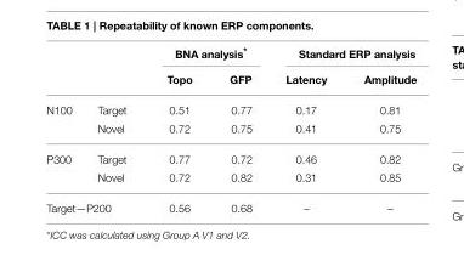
<table><thead><tr><td rowspan="2"></td><td rowspan="2"></td><td colspan="2">BNA analysis*</td><td colspan="2">Standard ERP analysis</td></tr><tr><td>Topo</td><td>GFP</td><td>Latency</td><td>Amplitude</td></tr></thead><tbody><tr><td rowspan="2">N100</td><td>Target</td><td>0.51</td><td>0.77</td><td>0.17</td><td>0.81</td></tr><tr><td>Novel</td><td>0.72</td><td>0.75</td><td>0.41</td><td>0.75</td></tr><tr><td rowspan="2">P300</td><td>Target</td><td>0.77</td><td>0.72</td><td>0.46</td><td>0.82</td></tr><tr><td>Novel</td><td>0.72</td><td>0.82</td><td>0.31</td><td>0.85</td></tr><tr><td colspan="2">Target—P200</td><td>0.56</td><td>0.68</td><td>–</td><td>–</td></tr></tbody></table>